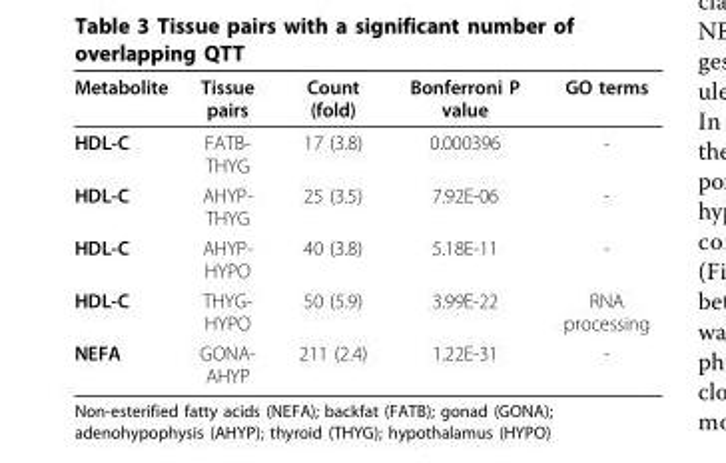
<table><thead><tr><td>Metabolite</td><td>Tissue pairs</td><td>Count (fold)</td><td>Bonferroni P value</td><td>GO terms</td></tr></thead><tbody><tr><td>HDL-C</td><td>FATB- THYG</td><td>17 (3.8)</td><td>0.000396</td><td>-</td></tr><tr><td>HDL-C</td><td>AHYP- THYG</td><td>25 (3.5)</td><td>7.92E-06</td><td>-</td></tr><tr><td>HDL-C</td><td>AHYP- HYPO</td><td>40 (3.8)</td><td>5.18E-11</td><td>-</td></tr><tr><td>HDL-C</td><td>THYG- HYPO</td><td>50 (5.9)</td><td>3.99E-22</td><td>RNA processing</td></tr><tr><td>NEFA</td><td>GONA- AHYP</td><td>211 (2.4)</td><td>1.22E-31</td><td>-</td></tr></tbody></table>